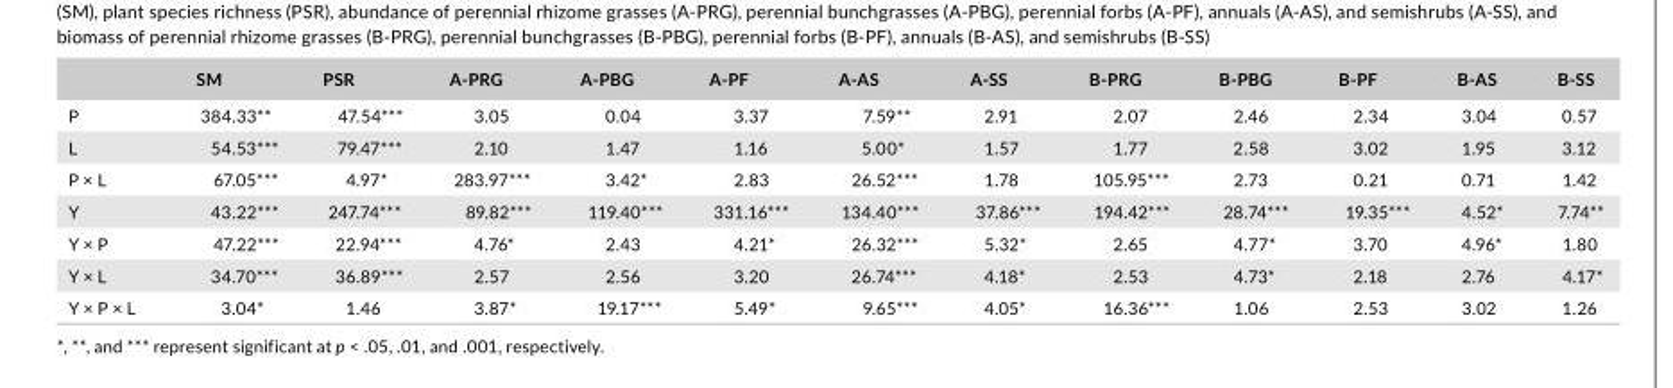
<table><thead><tr><td></td><td>SM</td><td>PSR</td><td>A- PRG</td><td>A- PBG</td><td>A- PF</td><td>A- AS</td><td>A- SS</td><td>B- PRG</td><td>B- PBG</td><td>B- PF</td><td>B- AS</td><td>B- SS</td></tr></thead><tbody><tr><td>P</td><td>384.33**</td><td>47.54***</td><td>3.05</td><td>0.04</td><td>3.37</td><td>7.59**</td><td>2.91</td><td>2.07</td><td>2.46</td><td>2.34</td><td>3.04</td><td>0.57</td></tr><tr><td>L</td><td>54.53***</td><td>79.47***</td><td>2.10</td><td>1.47</td><td>1.16</td><td>5.00*</td><td>1.57</td><td>1.77</td><td>2.58</td><td>3.02</td><td>1.95</td><td>3.12</td></tr><tr><td>P × L</td><td>67.05***</td><td>4.97*</td><td>283.97***</td><td>3.42*</td><td>2.83</td><td>26.52***</td><td>1.78</td><td>105.95***</td><td>2.73</td><td>0.21</td><td>0.71</td><td>1.42</td></tr><tr><td>Y</td><td>43.22***</td><td>247.74***</td><td>89.82***</td><td>119.40***</td><td>331.16***</td><td>134.40***</td><td>37.86***</td><td>194.42***</td><td>28.74***</td><td>19.35***</td><td>4.52*</td><td>7.74**</td></tr><tr><td>Y × P</td><td>47.22***</td><td>22.94***</td><td>4.76*</td><td>2.43</td><td>4.21*</td><td>26.32***</td><td>5.32*</td><td>2.65</td><td>4.77*</td><td>3.70</td><td>4.96*</td><td>1.80</td></tr><tr><td>Y × L</td><td>34.70***</td><td>36.89***</td><td>2.57</td><td>2.56</td><td>3.20</td><td>26.74***</td><td>4.18*</td><td>2.53</td><td>4.73*</td><td>2.18</td><td>2.76</td><td>4.17*</td></tr><tr><td>Y × P × L</td><td>3.04*</td><td>1.46</td><td>3.87*</td><td>19.17***</td><td>5.49*</td><td>9.65***</td><td>4.05*</td><td>16.36***</td><td>1.06</td><td>2.53</td><td>3.02</td><td>1.26</td></tr></tbody></table>